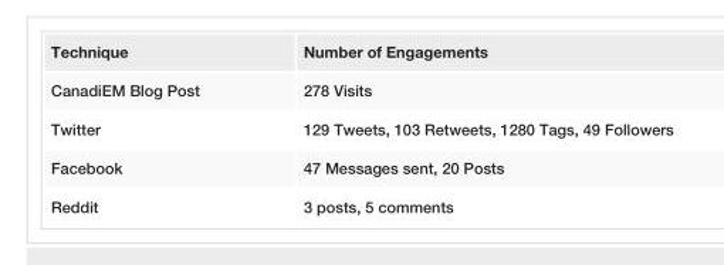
<table><tbody><tr><td>Technique</td><td>Number of Engagements</td></tr><tr><td>CanadiEM Blog Post</td><td>278 Visits</td></tr><tr><td>Twitter</td><td>129 Tweets, 103 Retweets, 1280 Tags, 49 Followers</td></tr><tr><td>Facebook</td><td>47 Messages sent, 20 Posts</td></tr><tr><td>Reddit</td><td>3 posts, 5 comments</td></tr></tbody></table>